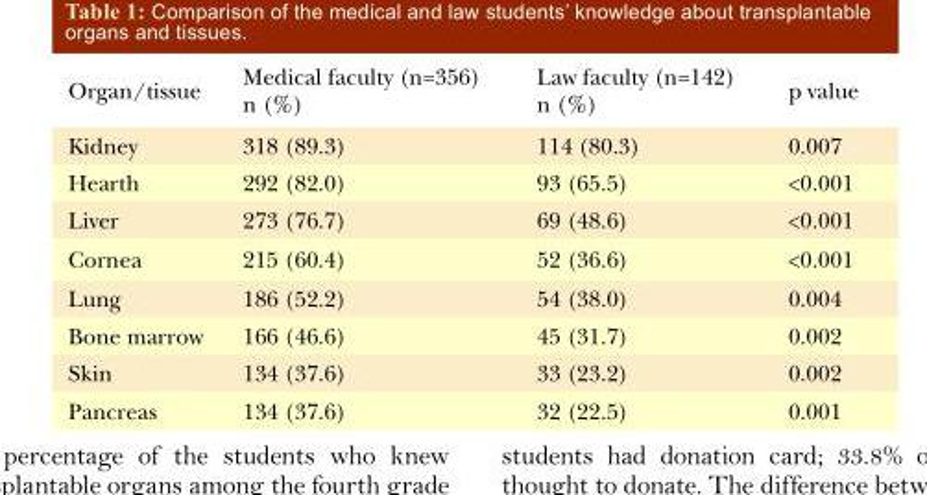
<table><thead><tr><td>Organ/tissue</td><td>Medical faculty (n=356) n (%)</td><td>Law faculty (n=142) n (%)</td><td>p value</td></tr></thead><tbody><tr><td>Kidney</td><td>318 (89.3)</td><td>114 (80.3)</td><td>0.007</td></tr><tr><td>Hearth</td><td>292 (82.0)</td><td>93 (65.5)</td><td>&lt;0.001</td></tr><tr><td>Liver</td><td>273 (76.7)</td><td>69 (48.6)</td><td>&lt;0.001</td></tr><tr><td>Cornea</td><td>215 (60.4)</td><td>52 (36.6)</td><td>&lt;0.001</td></tr><tr><td>Lung</td><td>186 (52.2)</td><td>54 (38.0)</td><td>0.004</td></tr><tr><td>Bone marrow</td><td>166 (46.6)</td><td>45 (31.7)</td><td>0.002</td></tr><tr><td>Skin</td><td>134 (37.6)</td><td>33 (23.2)</td><td>0.002</td></tr><tr><td>Pancreas</td><td>134 (37.6)</td><td>32 (22.5)</td><td>0.001</td></tr></tbody></table>